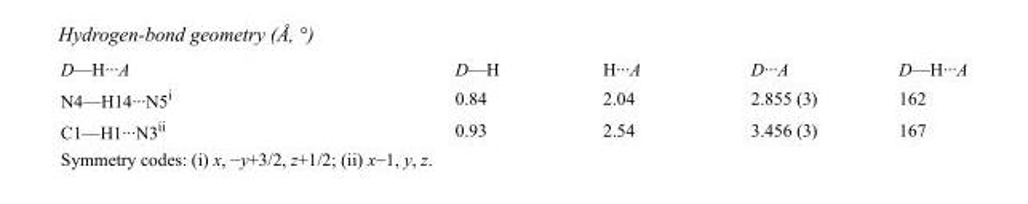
<table><tbody><tr><td>D—H···A</td><td>D—H</td><td>H···A</td><td>D···A</td><td>D—H···A</td></tr><tr><td>N4—H14···N5<sup>i</sup></td><td>0.84</td><td>2.04</td><td>2.855 (3)</td><td>162</td></tr><tr><td>C1—H1···N3<sup>ii</sup></td><td>0.93</td><td>2.54</td><td>3.456 (3)</td><td>167</td></tr></tbody></table>